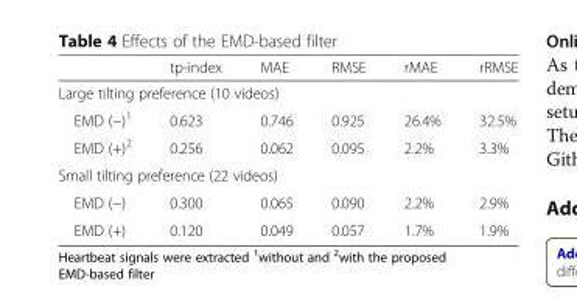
<table><thead><tr><td></td><td>tp-index</td><td>MAE</td><td>RMSE</td><td>rMAE</td><td>rRMSE</td></tr></thead><tbody><tr><td colspan="6">Large tilting preference (10 videos)</td></tr><tr><td>EMD (−)<sup>1</sup></td><td>0.623</td><td>0.746</td><td>0.925</td><td>26.4%</td><td>32.5%</td></tr><tr><td>EMD (+)<sup>2</sup></td><td>0.256</td><td>0.062</td><td>0.095</td><td>2.2%</td><td>3.3%</td></tr><tr><td colspan="6">Small tilting preference (22 videos)</td></tr><tr><td>EMD (−)</td><td>0.300</td><td>0.065</td><td>0.090</td><td>2.2%</td><td>2.9%</td></tr><tr><td>EMD (+)</td><td>0.120</td><td>0.049</td><td>0.057</td><td>1.7%</td><td>1.9%</td></tr></tbody></table>